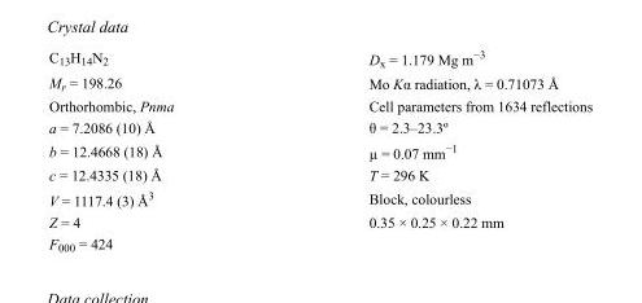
<table><tbody><tr><td>C<sub>13</sub>H<sub>14</sub>N<sub>2</sub></td><td>D<sub>x</sub> = 1.179 Mg m<sup>−3</sup></td></tr><tr><td>M<sub>r</sub> = 198.26</td><td>Mo Kα radiation, λ = 0.71073 Å</td></tr><tr><td>Orthorhombic, Pnma</td><td>Cell parameters from 1634 reflections</td></tr><tr><td>a = 7.2086 (10) Å</td><td>θ = 2.3–23.3º</td></tr><tr><td>b = 12.4668 (18) Å</td><td>µ = 0.07 mm<sup>−1</sup></td></tr><tr><td>c = 12.4335 (18) Å</td><td>T = 296 K</td></tr><tr><td>V = 1117.4 (3) Å<sup>3</sup></td><td>Block, colourless</td></tr><tr><td>Z = 4</td><td>0.35 × 0.25 × 0.22 mm</td></tr><tr><td>F000 = 424</td><td></td></tr></tbody></table>